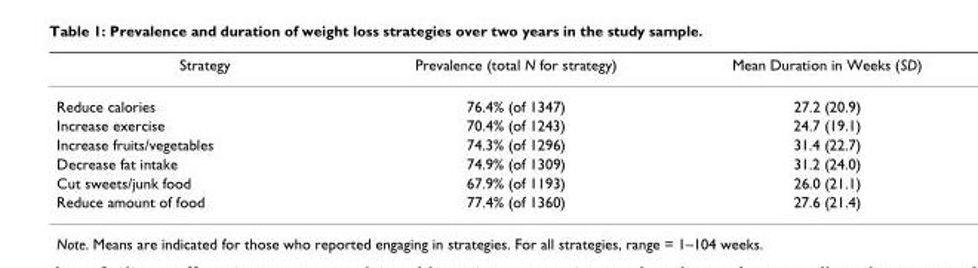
<table><thead><tr><td>Strategy</td><td>Prevalence (total N for strategy)</td><td>Mean Duration in Weeks (SD)</td></tr></thead><tbody><tr><td>Reduce calories</td><td>76.4% (of 1347)</td><td>27.2 (20.9)</td></tr><tr><td>Increase exercise</td><td>70.4% (of 1243)</td><td>24.7 (19.1)</td></tr><tr><td>Increase fruits/vegetables</td><td>74.3% (of 1296)</td><td>31.4 (22.7)</td></tr><tr><td>Decrease fat intake</td><td>74.9% (of 1309)</td><td>31.2 (24.0)</td></tr><tr><td>Cut sweets/junk food</td><td>67.9% (of 1193)</td><td>26.0 (21.1)</td></tr><tr><td>Reduce amount of food</td><td>77.4% (of 1360)</td><td>27.6 (21.4)</td></tr></tbody></table>